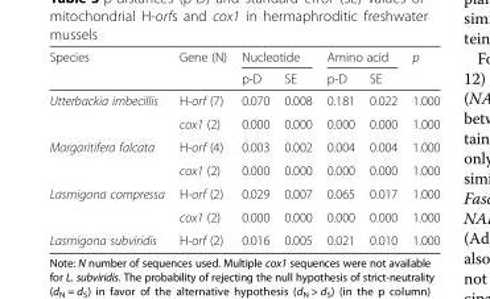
<table><thead><tr><td rowspan="2">Species</td><td rowspan="2">Gene (N)</td><td colspan="2">Nucleotide</td><td colspan="2">Amino acid</td><td rowspan="2">p</td></tr><tr><td>p-D</td><td>SE</td><td>p-D</td><td>SE</td></tr></thead><tbody><tr><td rowspan="2">Utterbackia imbecillis</td><td>H-orf (7)</td><td>0.070</td><td>0.008</td><td>0.181</td><td>0.022</td><td>1.000</td></tr><tr><td>cox1 (2)</td><td>0.000</td><td>0.000</td><td>0.000</td><td>0.000</td><td>1.000</td></tr><tr><td rowspan="2">Margaritifera falcata</td><td>H-orf (4)</td><td>0.003</td><td>0.002</td><td>0.004</td><td>0.004</td><td>1.000</td></tr><tr><td>cox1 (2)</td><td>0.000</td><td>0.000</td><td>0.000</td><td>0.000</td><td>1.000</td></tr><tr><td rowspan="2">Lasmigona compressa</td><td>H-orf (2)</td><td>0.029</td><td>0.007</td><td>0.065</td><td>0.017</td><td>1.000</td></tr><tr><td>cox1 (2)</td><td>0.000</td><td>0.000</td><td>0.000</td><td>0.000</td><td>1.000</td></tr><tr><td>Lasmigona subviridis</td><td>H-orf (2)</td><td>0.016</td><td>0.005</td><td>0.021</td><td>0.010</td><td>1.000</td></tr></tbody></table>